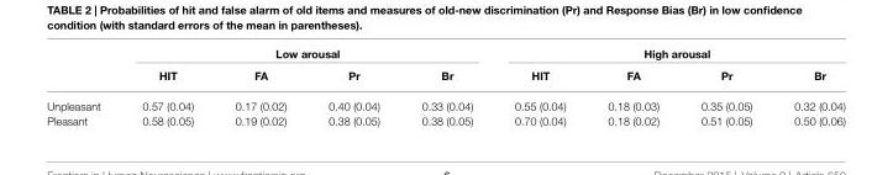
<table><thead><tr><td rowspan="2"></td><td colspan="4">Low arousal</td><td colspan="4">High arousal</td></tr><tr><td>HIT</td><td>FA</td><td>Pr</td><td>Br</td><td>HIT</td><td>FA</td><td>Pr</td><td>Br</td></tr></thead><tbody><tr><td>Unpleasant</td><td>0.57 (0.04)</td><td>0.17 (0.02)</td><td>0.40 (0.04)</td><td>0.33 (0.04)</td><td>0.55 (0.04)</td><td>0.18 (0.03)</td><td>0.35 (0.05)</td><td>0.32 (0.04)</td></tr><tr><td>Pleasant</td><td>0.58 (0.05)</td><td>0.19 (0.02)</td><td>0.38 (0.05)</td><td>0.38 (0.05)</td><td>0.70 (0.04)</td><td>0.18 (0.02)</td><td>0.51 (0.05)</td><td>0.50 (0.06)</td></tr></tbody></table>